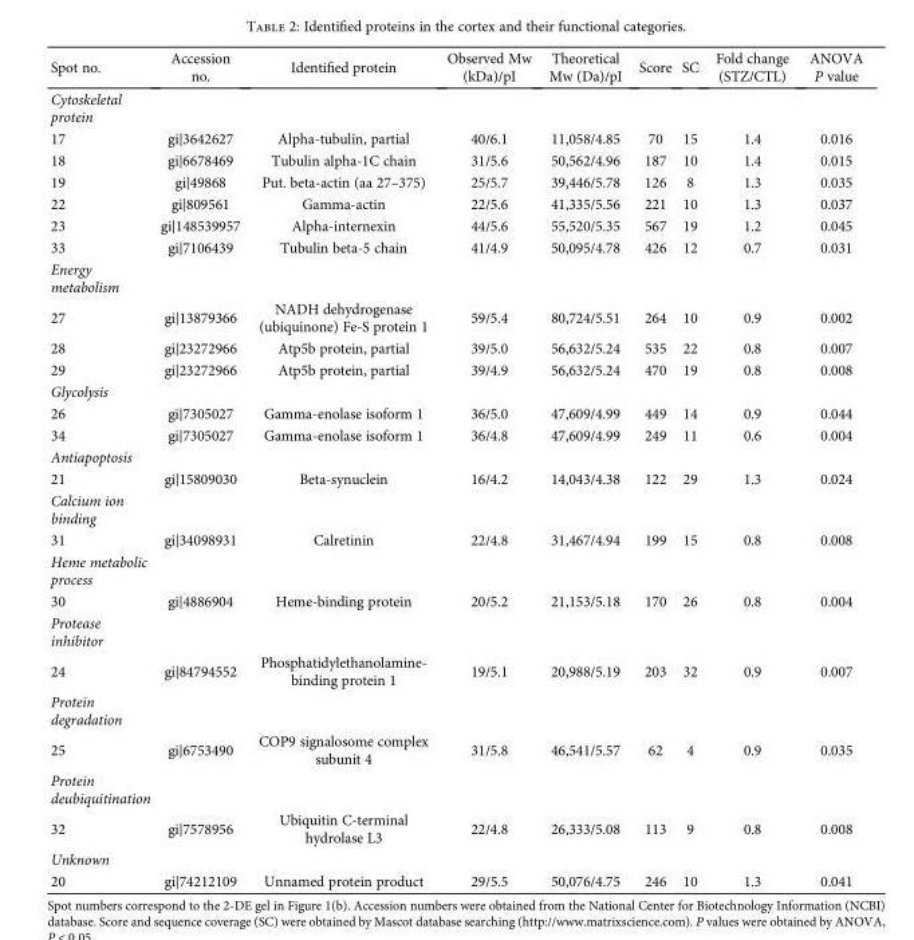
<table><thead><tr><td>Spot no.</td><td>Accession no.</td><td>Identified protein</td><td>Observed Mw (kDa)/pI</td><td>Theoretical Mw (Da)/pI</td><td>Score</td><td>SC</td><td>Fold change (STZ/CTL)</td><td>ANOVA P value</td></tr></thead><tbody><tr><td colspan="9">Cytoskeletal protein</td></tr><tr><td>17</td><td>gi|3642627</td><td>Alpha-tubulin, partial</td><td>40/6.1</td><td>11,058/4.85</td><td>70</td><td>15</td><td>1.4</td><td>0.016</td></tr><tr><td>18</td><td>gi|6678469</td><td>Tubulin alpha-1C chain</td><td>31/5.6</td><td>50,562/4.96</td><td>187</td><td>10</td><td>1.4</td><td>0.015</td></tr><tr><td>19</td><td>gi|49868</td><td>Put. beta-actin (aa 27–375)</td><td>25/5.7</td><td>39,446/5.78</td><td>126</td><td>8</td><td>1.3</td><td>0.035</td></tr><tr><td>22</td><td>gi|809561</td><td>Gamma-actin</td><td>22/5.6</td><td>41,335/5.56</td><td>221</td><td>10</td><td>1.3</td><td>0.037</td></tr><tr><td>23</td><td>gi|148539957</td><td>Alpha-internexin</td><td>44/5.6</td><td>55,520/5.35</td><td>567</td><td>19</td><td>1.2</td><td>0.045</td></tr><tr><td>33</td><td>gi|7106439</td><td>Tubulin beta-5 chain</td><td>41/4.9</td><td>50,095/4.78</td><td>426</td><td>12</td><td>0.7</td><td>0.031</td></tr><tr><td colspan="9">Energy metabolism</td></tr><tr><td>27</td><td>gi|13879366</td><td>NADH dehydrogenase (ubiquinone) Fe-S protein 1</td><td>59/5.4</td><td>80,724/5.51</td><td>264</td><td>10</td><td>0.9</td><td>0.002</td></tr><tr><td>28</td><td>gi|23272966</td><td>Atp5b protein, partial</td><td>39/5.0</td><td>56,632/5.24</td><td>535</td><td>22</td><td>0.8</td><td>0.007</td></tr><tr><td>29</td><td>gi|23272966</td><td>Atp5b protein, partial</td><td>39/4.9</td><td>56,632/5.24</td><td>470</td><td>19</td><td>0.8</td><td>0.008</td></tr><tr><td colspan="9">Glycolysis</td></tr><tr><td>26</td><td>gi|7305027</td><td>Gamma-enolase isoform 1</td><td>36/5.0</td><td>47,609/4.99</td><td>449</td><td>14</td><td>0.9</td><td>0.044</td></tr><tr><td>34</td><td>gi|7305027</td><td>Gamma-enolase isoform 1</td><td>36/4.8</td><td>47,609/4.99</td><td>249</td><td>11</td><td>0.6</td><td>0.004</td></tr><tr><td colspan="9">Antiapoptosis</td></tr><tr><td>21</td><td>gi|15809030</td><td>Beta-synuclein</td><td>16/4.2</td><td>14,043/4.38</td><td>122</td><td>29</td><td>1.3</td><td>0.024</td></tr><tr><td colspan="9">Calcium ion binding</td></tr><tr><td>31</td><td>gi|34098931</td><td>Calretinin</td><td>22/4.8</td><td>31,467/4.94</td><td>199</td><td>15</td><td>0.8</td><td>0.008</td></tr><tr><td colspan="9">Heme metabolic process</td></tr><tr><td>30</td><td>gi|4886904</td><td>Heme-binding protein</td><td>20/5.2</td><td>21,153/5.18</td><td>170</td><td>26</td><td>0.8</td><td>0.004</td></tr><tr><td colspan="9">Protease inhibitor</td></tr><tr><td>24</td><td>gi|84794552</td><td>Phosphatidylethanolamine- binding protein 1</td><td>19/5.1</td><td>20,988/5.19</td><td>203</td><td>32</td><td>0.9</td><td>0.007</td></tr><tr><td colspan="9">Protein degradation</td></tr><tr><td>25</td><td>gi|6753490</td><td>COP9 signalosome complex subunit 4</td><td>31/5.8</td><td>46,541/5.57</td><td>62</td><td>4</td><td>0.9</td><td>0.035</td></tr><tr><td colspan="9">Protein deubiquitination</td></tr><tr><td>32</td><td>gi|7578956</td><td>Ubiquitin C-terminal hydrolase L3</td><td>22/4.8</td><td>26,333/5.08</td><td>113</td><td>9</td><td>0.8</td><td>0.008</td></tr><tr><td colspan="9">Unknown</td></tr><tr><td>20</td><td>gi|74212109</td><td>Unnamed protein product</td><td>29/5.5</td><td>50,076/4.75</td><td>246</td><td>10</td><td>1.3</td><td>0.041</td></tr></tbody></table>